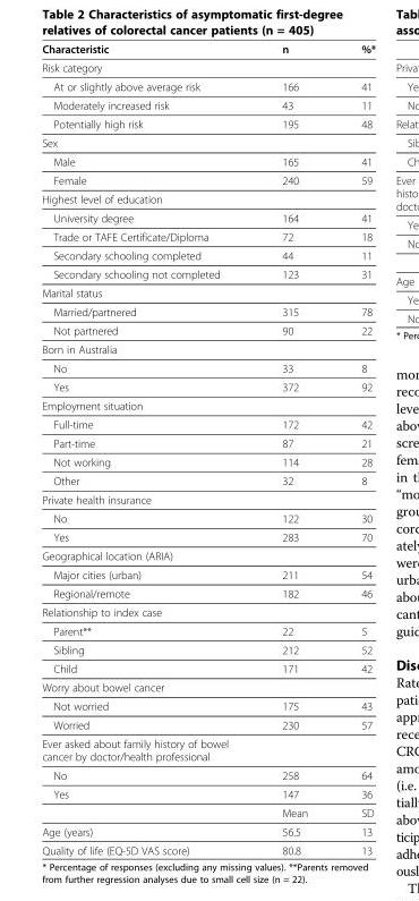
<table><thead><tr><td>Characteristic</td><td>n</td><td>%*</td></tr></thead><tbody><tr><td colspan="3">Risk category</td></tr><tr><td>At or slightly above average risk</td><td>166</td><td>41</td></tr><tr><td>Moderately increased risk</td><td>43</td><td>11</td></tr><tr><td>Potentially high risk</td><td>195</td><td>48</td></tr><tr><td colspan="3">Sex</td></tr><tr><td>Male</td><td>165</td><td>41</td></tr><tr><td>Female</td><td>240</td><td>59</td></tr><tr><td colspan="3">Highest level of education</td></tr><tr><td>University degree</td><td>164</td><td>41</td></tr><tr><td>Trade or TAFE Certificate/Diploma</td><td>72</td><td>18</td></tr><tr><td>Secondary schooling completed</td><td>44</td><td>11</td></tr><tr><td>Secondary schooling not completed</td><td>123</td><td>31</td></tr><tr><td colspan="3">Marital status</td></tr><tr><td>Married/partnered</td><td>315</td><td>78</td></tr><tr><td>Not partnered</td><td>90</td><td>22</td></tr><tr><td colspan="3">Born in Australia</td></tr><tr><td>No</td><td>33</td><td>8</td></tr><tr><td>Yes</td><td>372</td><td>92</td></tr><tr><td colspan="3">Employment situation</td></tr><tr><td>Full-time</td><td>172</td><td>42</td></tr><tr><td>Part-time</td><td>87</td><td>21</td></tr><tr><td>Not working</td><td>114</td><td>28</td></tr><tr><td>Other</td><td>32</td><td>8</td></tr><tr><td colspan="3">Private health insurance</td></tr><tr><td>No</td><td>122</td><td>30</td></tr><tr><td>Yes</td><td>283</td><td>70</td></tr><tr><td colspan="3">Geographical location (ARIA)</td></tr><tr><td>Major cities (urban)</td><td>211</td><td>54</td></tr><tr><td>Regional/remote</td><td>182</td><td>46</td></tr><tr><td colspan="3">Relationship to index case</td></tr><tr><td>Parent**</td><td>22</td><td>5</td></tr><tr><td>Sibling</td><td>212</td><td>52</td></tr><tr><td>Child</td><td>171</td><td>42</td></tr><tr><td colspan="3">Worry about bowel cancer</td></tr><tr><td>Not worried</td><td>175</td><td>43</td></tr><tr><td>Worried</td><td>230</td><td>57</td></tr><tr><td colspan="3">Ever asked about family history of bowel cancer by doctor/health professional</td></tr><tr><td>No</td><td>258</td><td>64</td></tr><tr><td rowspan="2">Yes</td><td>147</td><td>36</td></tr><tr><td>Mean</td><td>SD</td></tr><tr><td>Age (years)</td><td>56.5</td><td>13</td></tr><tr><td>Quality of life (EQ-5D VAS score)</td><td>80.8</td><td>13</td></tr></tbody></table>